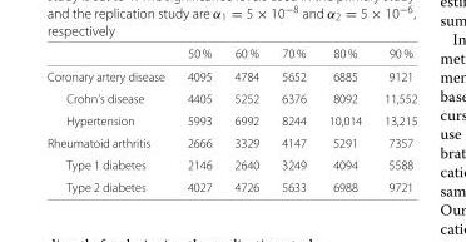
<table><thead><tr><td></td><td>50 %</td><td>60 %</td><td>70 %</td><td>80 %</td><td>90 %</td></tr></thead><tbody><tr><td>Coronary artery disease</td><td>4095</td><td>4784</td><td>5652</td><td>6885</td><td>9121</td></tr><tr><td>Crohn’s disease</td><td>4405</td><td>5252</td><td>6376</td><td>8092</td><td>11,552</td></tr><tr><td>Hypertension</td><td>5993</td><td>6992</td><td>8244</td><td>10,014</td><td>13,215</td></tr><tr><td>Rheumatoid arthritis</td><td>2666</td><td>3329</td><td>4147</td><td>5291</td><td>7357</td></tr><tr><td>Type 1 diabetes</td><td>2146</td><td>2640</td><td>3249</td><td>4094</td><td>5588</td></tr><tr><td>Type 2 diabetes</td><td>4027</td><td>4726</td><td>5633</td><td>6988</td><td>9721</td></tr></tbody></table>